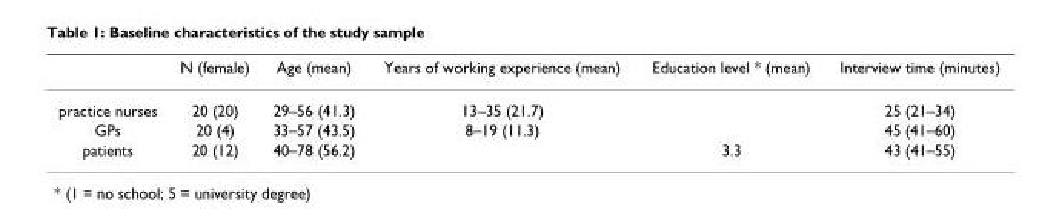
<table><thead><tr><td></td><td>N (female)</td><td>Age (mean)</td><td>Years of working experience (mean)</td><td>Education level * (mean)</td><td>Interview time (minutes)</td></tr></thead><tbody><tr><td>practice nurses</td><td>20 (20)</td><td>29–56 (41.3)</td><td>13–35 (21.7)</td><td></td><td>25 (21–34)</td></tr><tr><td>GPs</td><td>20 (4)</td><td>33–57 (43.5)</td><td>8–19 (11.3)</td><td></td><td>45 (41–60)</td></tr><tr><td>patients</td><td>20 (12)</td><td>40–78 (56.2)</td><td></td><td>3.3</td><td>43 (41–55)</td></tr></tbody></table>